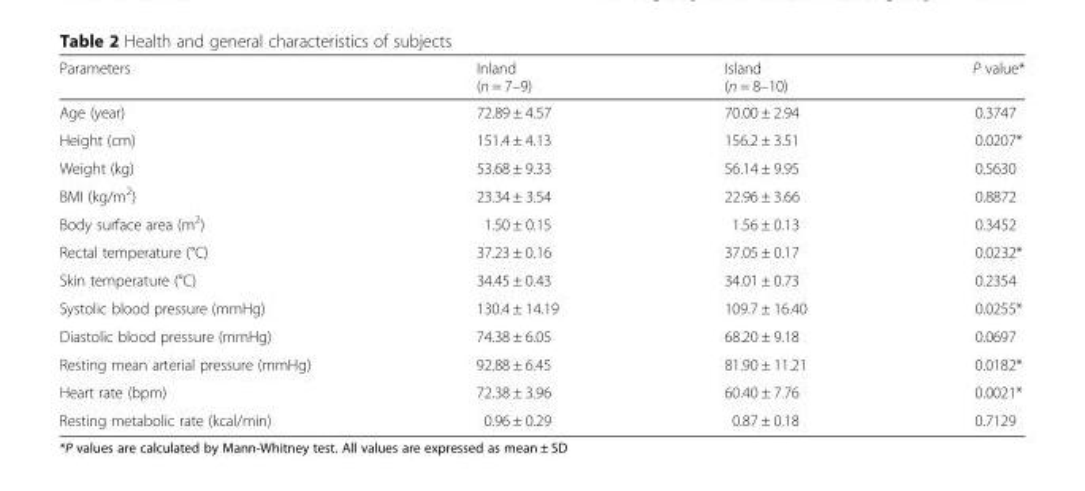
<table><thead><tr><td>Parameters</td><td>Inland (n = 7–9)</td><td>Island (n = 8–10)</td><td>P value*</td></tr></thead><tbody><tr><td>Age (year)</td><td>72.89 ± 4.57</td><td>70.00 ± 2.94</td><td>0.3747</td></tr><tr><td>Height (cm)</td><td>151.4 ± 4.13</td><td>156.2 ± 3.51</td><td>0.0207*</td></tr><tr><td>Weight (kg)</td><td>53.68 ± 9.33</td><td>56.14 ± 9.95</td><td>0.5630</td></tr><tr><td>BMI (kg/m<sup>2</sup>)</td><td>23.34 ± 3.54</td><td>22.96 ± 3.66</td><td>0.8872</td></tr><tr><td>Body surface area (m<sup>2</sup>)</td><td>1.50 ± 0.15</td><td>1.56 ± 0.13</td><td>0.3452</td></tr><tr><td>Rectal temperature (°C)</td><td>37.23 ± 0.16</td><td>37.05 ± 0.17</td><td>0.0232*</td></tr><tr><td>Skin temperature (°C)</td><td>34.45 ± 0.43</td><td>34.01 ± 0.73</td><td>0.2354</td></tr><tr><td>Systolic blood pressure (mmHg)</td><td>130.4 ± 14.19</td><td>109.7 ± 16.40</td><td>0.0255*</td></tr><tr><td>Diastolic blood pressure (mmHg)</td><td>74.38 ± 6.05</td><td>68.20 ± 9.18</td><td>0.0697</td></tr><tr><td>Resting mean arterial pressure (mmHg)</td><td>92.88 ± 6.45</td><td>81.90 ± 11.21</td><td>0.0182*</td></tr><tr><td>Heart rate (bpm)</td><td>72.38 ± 3.96</td><td>60.40 ± 7.76</td><td>0.0021*</td></tr><tr><td>Resting metabolic rate (kcal/min)</td><td>0.96 ± 0.29</td><td>0.87 ± 0.18</td><td>0.7129</td></tr></tbody></table>